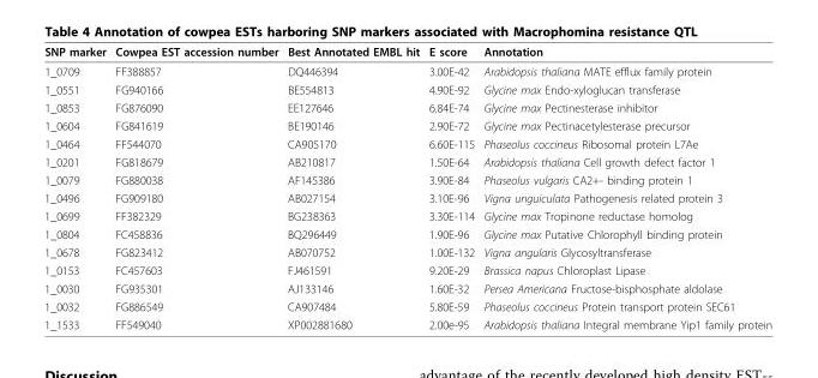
<table><thead><tr><td>SNP marker</td><td>Cowpea EST accession number</td><td>Best Annotated EMBL hit</td><td>E score</td><td>Annotation</td></tr></thead><tbody><tr><td>1_0709</td><td>FF388857</td><td>DQ446394</td><td>3.00E-42</td><td>Arabidopsis thaliana MATE efflux family protein</td></tr><tr><td>1_0551</td><td>FG940166</td><td>BE554813</td><td>4.90E-92</td><td>Glycine max Endo-xyloglucan transferase</td></tr><tr><td>1_0853</td><td>FG876090</td><td>EE127646</td><td>6.84E-74</td><td>Glycine max Pectinesterase inhibitor</td></tr><tr><td>1_0604</td><td>FG841619</td><td>BE190146</td><td>2.90E-72</td><td>Glycine max Pectinacetylesterase precursor</td></tr><tr><td>1_0464</td><td>FF544070</td><td>CA905170</td><td>6.60E-115</td><td>Phaseolus coccineus Ribosomal protein L7Ae</td></tr><tr><td>1_0201</td><td>FG818679</td><td>AB210817</td><td>1.50E-64</td><td>Arabidopsis thaliana Cell growth defect factor 1</td></tr><tr><td>1_0079</td><td>FG880038</td><td>AF145386</td><td>3.90E-84</td><td>Phaseolus vulgaris CA2+- binding protein 1</td></tr><tr><td>1_0496</td><td>FG909180</td><td>AB027154</td><td>3.10E-96</td><td>Vigna unguiculata Pathogenesis related protein 3</td></tr><tr><td>1_0699</td><td>FF382329</td><td>BG238363</td><td>3.30E-114</td><td>Glycine max Tropinone reductase homolog</td></tr><tr><td>1_0804</td><td>FC458836</td><td>BQ296449</td><td>1.90E-96</td><td>Glycine max Putative Chlorophyll binding protein</td></tr><tr><td>1_0678</td><td>FG823412</td><td>AB070752</td><td>1.00E-132</td><td>Vigna angularis Glycosyltransferase</td></tr><tr><td>1_0153</td><td>FC457603</td><td>FJ461591</td><td>9.20E-29</td><td>Brassica napus Chloroplast Lipase</td></tr><tr><td>1_0030</td><td>FG935301</td><td>AJ133146</td><td>1.60E-32</td><td>Persea Americana Fructose-bisphosphate aldolase</td></tr><tr><td>1_0032</td><td>FG886549</td><td>CA907484</td><td>5.80E-59</td><td>Phaseolus coccineus Protein transport protein SEC61</td></tr><tr><td>1_1533</td><td>FF549040</td><td>XP002881680</td><td>2.00e-95</td><td>Arabidopsis thaliana Integral membrane Yip1 family protein</td></tr></tbody></table>